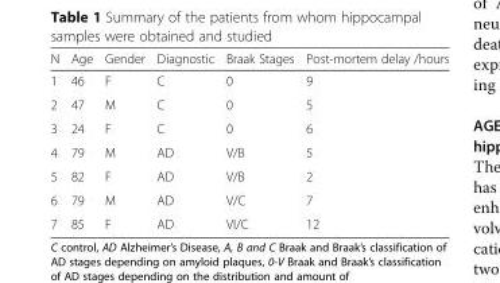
<table><thead><tr><td>N</td><td>Age</td><td>Gender</td><td>Diagnostic</td><td>Braak Stages</td><td>Post-mortem delay /hours</td></tr></thead><tbody><tr><td>1</td><td>46</td><td>F</td><td>C</td><td>0</td><td>9</td></tr><tr><td>2</td><td>47</td><td>M</td><td>C</td><td>0</td><td>5</td></tr><tr><td>3</td><td>24</td><td>F</td><td>C</td><td>0</td><td>6</td></tr><tr><td>4</td><td>79</td><td>M</td><td>AD</td><td>V/B</td><td>5</td></tr><tr><td>5</td><td>82</td><td>F</td><td>AD</td><td>V/B</td><td>2</td></tr><tr><td>6</td><td>79</td><td>M</td><td>AD</td><td>V/C</td><td>7</td></tr><tr><td>7</td><td>85</td><td>F</td><td>AD</td><td>VI/C</td><td>12</td></tr></tbody></table>